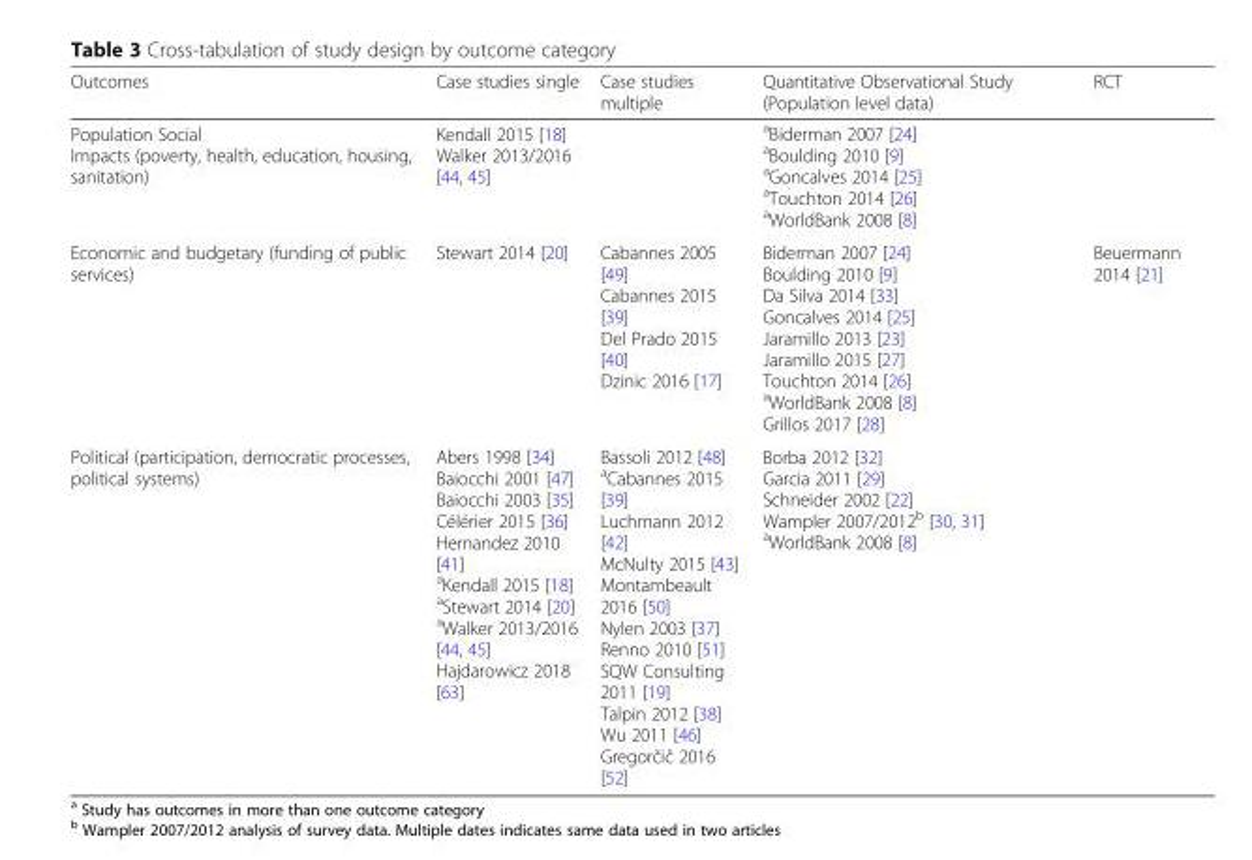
<table><thead><tr><td>Outcomes</td><td>Case studies single</td><td>Case studies multiple</td><td>Quantitative Observational Study (Population level data)</td><td>RCT</td></tr></thead><tbody><tr><td>Population Social Impacts (poverty, health, education, housing, sanitation)</td><td>Kendall 2015 [18] Walker 2013/2016 [44, 45]</td><td></td><td><sup>a</sup>Biderman 2007 [24] <sup>a</sup>Boulding 2010 [9] <sup>a</sup>Goncalves 2014 [25] <sup>a</sup>Touchton 2014 [26] <sup>a</sup>WorldBank 2008 [8]</td><td></td></tr><tr><td>Economic and budgetary (funding of public services)</td><td>Stewart 2014 [20]</td><td>Cabannes 2005 [49] Cabannes 2015 [39] Del Prado 2015 [40] Dzinic 2016 [17]</td><td>Biderman 2007 [24] Boulding 2010 [9] Da Silva 2014 [33] Goncalves 2014 [25] Jaramillo 2013 [23] Jaramillo 2015 [27] Touchton 2014 [26] <sup>a</sup>WorldBank 2008 [8] Grillos 2017 [28]</td><td>Beuermann 2014 [21]</td></tr><tr><td>Political (participation, democratic processes, political systems)</td><td>Abers 1998 [34] Baiocchi 2001 [47] Baiocchi 2003 [35] Célérier 2015 [36] Hernandez 2010 [41] <sup>a</sup>Kendall 2015 [18] <sup>a</sup>Stewart 2014 [20] <sup>a</sup>Walker 2013/2016 [44, 45] Hajdarowicz 2018 [63]</td><td>Bassoli 2012 [48] <sup>a</sup>Cabannes 2015 [39] Luchmann 2012 [42] McNulty 2015 [43] Montambeault 2016 [50] Nylen 2003 [37] Renno 2010 [51] SQW Consulting 2011 [19] Talpin 2012 [38] Wu 2011 [46] Gregorčič 2016 [52]</td><td>Borba 2012 [32] Garcia 2011 [29] Schneider 2002 [22] Wampler 2007/2012<sup>b</sup> [30, 31] <sup>a</sup>WorldBank 2008 [8]</td><td></td></tr></tbody></table>